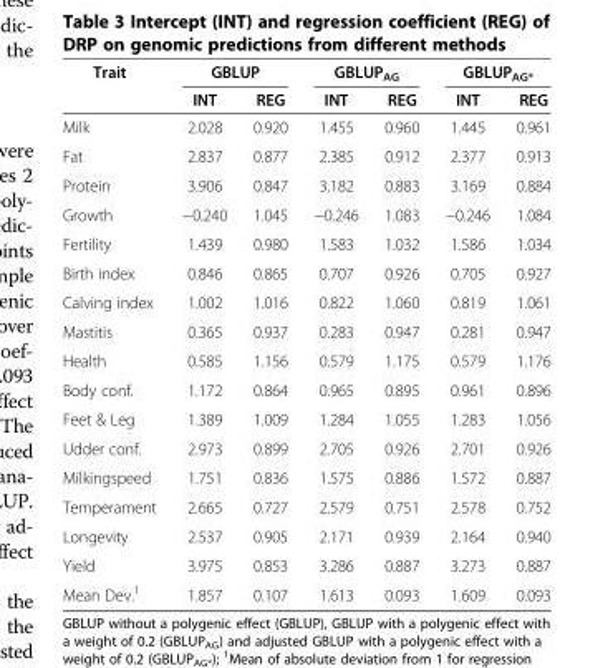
<table><thead><tr><td rowspan="2">Trait</td><td colspan="2">GBLUP</td><td colspan="2">GBLUP<sub>AG</sub></td><td colspan="2">GBLUP<sub>AG*</sub></td></tr><tr><td>INT</td><td>REG</td><td>INT</td><td>REG</td><td>INT</td><td>REG</td></tr></thead><tbody><tr><td>Milk</td><td>2.028</td><td>0.920</td><td>1.455</td><td>0.960</td><td>1.445</td><td>0.961</td></tr><tr><td>Fat</td><td>2.837</td><td>0.877</td><td>2.385</td><td>0.912</td><td>2.377</td><td>0.913</td></tr><tr><td>Protein</td><td>3.906</td><td>0.847</td><td>3.182</td><td>0.883</td><td>3.169</td><td>0.884</td></tr><tr><td>Growth</td><td>−0.240</td><td>1.045</td><td>−0.246</td><td>1.083</td><td>−0.246</td><td>1.084</td></tr><tr><td>Fertility</td><td>1.439</td><td>0.980</td><td>1.583</td><td>1.032</td><td>1.586</td><td>1.034</td></tr><tr><td>Birth index</td><td>0.846</td><td>0.865</td><td>0.707</td><td>0.926</td><td>0.705</td><td>0.927</td></tr><tr><td>Calving index</td><td>1.002</td><td>1.016</td><td>0.822</td><td>1.060</td><td>0.819</td><td>1.061</td></tr><tr><td>Mastitis</td><td>0.365</td><td>0.937</td><td>0.283</td><td>0.947</td><td>0.281</td><td>0.947</td></tr><tr><td>Health</td><td>0.585</td><td>1.156</td><td>0.579</td><td>1.175</td><td>0.579</td><td>1.176</td></tr><tr><td>Body conf.</td><td>1.172</td><td>0.864</td><td>0.965</td><td>0.895</td><td>0.961</td><td>0.896</td></tr><tr><td>Feet &amp; Leg</td><td>1.389</td><td>1.009</td><td>1.284</td><td>1.055</td><td>1.283</td><td>1.056</td></tr><tr><td>Udder conf.</td><td>2.973</td><td>0.899</td><td>2.705</td><td>0.926</td><td>2.701</td><td>0.926</td></tr><tr><td>Milkingspeed</td><td>1.751</td><td>0.836</td><td>1.575</td><td>0.886</td><td>1.572</td><td>0.887</td></tr><tr><td>Temperament</td><td>2.665</td><td>0.727</td><td>2.579</td><td>0.751</td><td>2.578</td><td>0.752</td></tr><tr><td>Longevity</td><td>2.537</td><td>0.905</td><td>2.171</td><td>0.939</td><td>2.164</td><td>0.940</td></tr><tr><td>Yield</td><td>3.975</td><td>0.853</td><td>3.286</td><td>0.887</td><td>3.273</td><td>0.887</td></tr><tr><td>Mean Dev.<sup>1</sup></td><td>1.857</td><td>0.107</td><td>1.613</td><td>0.093</td><td>1.609</td><td>0.093</td></tr></tbody></table>